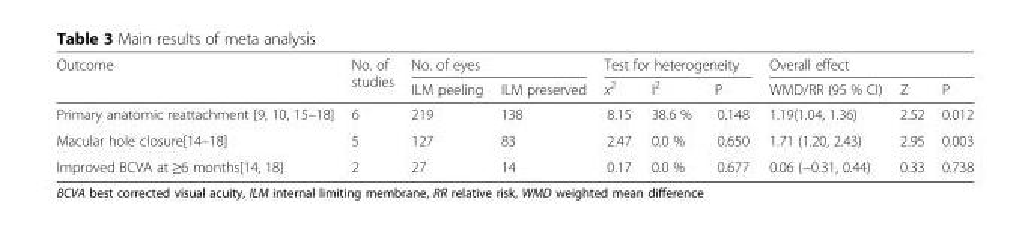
<table><thead><tr><td rowspan="2">Outcome</td><td rowspan="2">No. of studies</td><td colspan="2">No. of eyes</td><td colspan="3">Test for heterogeneity</td><td colspan="3">Overall effect</td></tr><tr><td>ILM peeling</td><td>ILM preserved</td><td>x<sup>2</sup></td><td>I<sup>2</sup></td><td>P</td><td>WMD/RR (95 % CI)</td><td>Z</td><td>P</td></tr></thead><tbody><tr><td>Primary anatomic reattachment [9, 10, 15–18]</td><td>6</td><td>219</td><td>138</td><td>8.15</td><td>38.6 %</td><td>0.148</td><td>1.19(1.04, 1.36)</td><td>2.52</td><td>0.012</td></tr><tr><td>Macular hole closure[14–18]</td><td>5</td><td>127</td><td>83</td><td>2.47</td><td>0.0 %</td><td>0.650</td><td>1.71 (1.20, 2.43)</td><td>2.95</td><td>0.003</td></tr><tr><td>Improved BCVA at ≥6 months[14, 18]</td><td>2</td><td>27</td><td>14</td><td>0.17</td><td>0.0 %</td><td>0.677</td><td>0.06 (−0.31, 0.44)</td><td>0.33</td><td>0.738</td></tr></tbody></table>